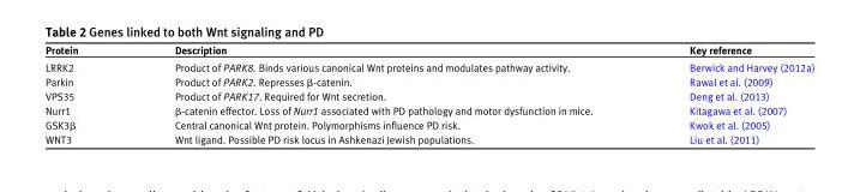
<table><thead><tr><td>Protein</td><td>Description</td><td>Key reference</td></tr></thead><tbody><tr><td>LRRK2</td><td>Product of PARK8. Binds various canonical Wnt proteins and modulates pathway activity.</td><td>Berwick and Harvey (2012a)</td></tr><tr><td>Parkin</td><td>Product of PARK2. Represses β-catenin.</td><td>Rawal et al. (2009)</td></tr><tr><td>VPS35</td><td>Product of PARK17. Required for Wnt secretion.</td><td>Deng et al. (2013)</td></tr><tr><td>Nurr1</td><td>β-catenin effector. Loss of Nurr1 associated with PD pathology and motor dysfunction in mice.</td><td>Kitagawa et al. (2007)</td></tr><tr><td>GSK3β</td><td>Central canonical Wnt protein. Polymorphisms influence PD risk.</td><td>Kwok et al. (2005)</td></tr><tr><td>WNT3</td><td>Wnt ligand. Possible PD risk locus in Ashkenazi Jewish populations.</td><td>Liu et al. (2011)</td></tr></tbody></table>